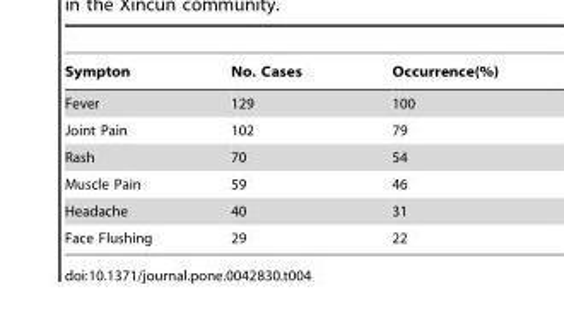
<table><thead><tr><td>Sympton</td><td>No. Cases</td><td>Occurrence(%)</td></tr></thead><tbody><tr><td>Fever</td><td>129</td><td>100</td></tr><tr><td>Joint Pain</td><td>102</td><td>79</td></tr><tr><td>Rash</td><td>70</td><td>54</td></tr><tr><td>Muscle Pain</td><td>59</td><td>46</td></tr><tr><td>Headache</td><td>40</td><td>31</td></tr><tr><td>Face Flushing</td><td>29</td><td>22</td></tr></tbody></table>